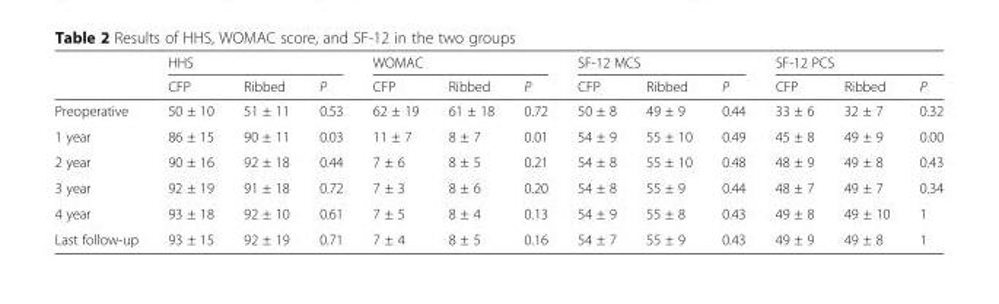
<table><thead><tr><td rowspan="2"></td><td colspan="3">HHS</td><td colspan="3">WOMAC</td><td colspan="3">SF-12 MCS</td><td colspan="3">SF-12 PCS</td></tr><tr><td>CFP</td><td>Ribbed</td><td>P</td><td>CFP</td><td>Ribbed</td><td>P</td><td>CFP</td><td>Ribbed</td><td>P</td><td>CFP</td><td>Ribbed</td><td>P</td></tr></thead><tbody><tr><td>Preoperative</td><td>50 ± 10</td><td>51 ± 11</td><td>0.53</td><td>62 ± 19</td><td>61 ± 18</td><td>0.72</td><td>50 ± 8</td><td>49 ± 9</td><td>0.44</td><td>33 ± 6</td><td>32 ± 7</td><td>0.32</td></tr><tr><td>1 year</td><td>86 ± 15</td><td>90 ± 11</td><td>0.03</td><td>11 ± 7</td><td>8 ± 7</td><td>0.01</td><td>54 ± 9</td><td>55 ± 10</td><td>0.49</td><td>45 ± 8</td><td>49 ± 9</td><td>0.00</td></tr><tr><td>2 year</td><td>90 ± 16</td><td>92 ± 18</td><td>0.44</td><td>7 ± 6</td><td>8 ± 5</td><td>0.21</td><td>54 ± 8</td><td>55 ± 10</td><td>0.48</td><td>48 ± 9</td><td>49 ± 8</td><td>0.43</td></tr><tr><td>3 year</td><td>92 ± 19</td><td>91 ± 18</td><td>0.72</td><td>7 ± 3</td><td>8 ± 6</td><td>0.20</td><td>54 ± 8</td><td>55 ± 9</td><td>0.44</td><td>48 ± 7</td><td>49 ± 7</td><td>0.34</td></tr><tr><td>4 year</td><td>93 ± 18</td><td>92 ± 10</td><td>0.61</td><td>7 ± 5</td><td>8 ± 4</td><td>0.13</td><td>54 ± 9</td><td>55 ± 8</td><td>0.43</td><td>49 ± 8</td><td>49 ± 10</td><td>1</td></tr><tr><td>Last follow-up</td><td>93 ± 15</td><td>92 ± 19</td><td>0.71</td><td>7 ± 4</td><td>8 ± 5</td><td>0.16</td><td>54 ± 7</td><td>55 ± 9</td><td>0.43</td><td>49 ± 9</td><td>49 ± 8</td><td>1</td></tr></tbody></table>